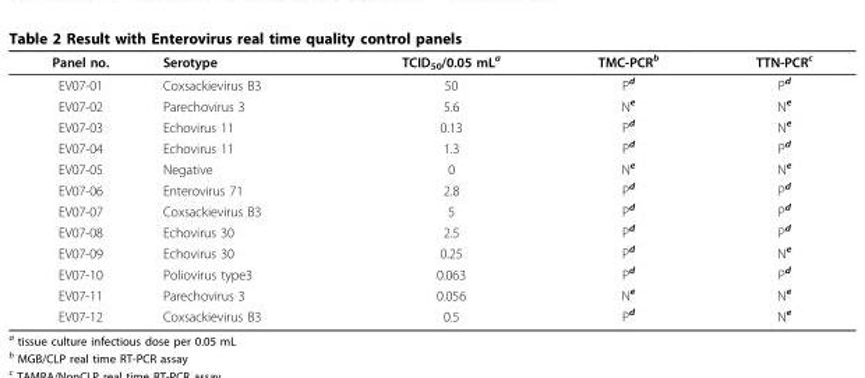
<table><thead><tr><td>Panel no.</td><td>Serotype</td><td>TCID<sub>50</sub>/0.05 mL<sup>a</sup></td><td>TMC-PCR<sup>b</sup></td><td>TTN-PCR<sup>c</sup></td></tr></thead><tbody><tr><td>EV07-01</td><td>Coxsackievirus B3</td><td>50</td><td>P<sup>d</sup></td><td>P<sup>d</sup></td></tr><tr><td>EV07-02</td><td>Parechovirus 3</td><td>5.6</td><td>N<sup>e</sup></td><td>N<sup>e</sup></td></tr><tr><td>EV07-03</td><td>Echovirus 11</td><td>0.13</td><td>P<sup>d</sup></td><td>N<sup>e</sup></td></tr><tr><td>EV07-04</td><td>Echovirus 11</td><td>1.3</td><td>P<sup>d</sup></td><td>P<sup>d</sup></td></tr><tr><td>EV07-05</td><td>Negative</td><td>0</td><td>N<sup>e</sup></td><td>N<sup>e</sup></td></tr><tr><td>EV07-06</td><td>Enterovirus 71</td><td>2.8</td><td>P<sup>d</sup></td><td>P<sup>d</sup></td></tr><tr><td>EV07-07</td><td>Coxsackievirus B3</td><td>5</td><td>P<sup>d</sup></td><td>P<sup>d</sup></td></tr><tr><td>EV07-08</td><td>Echovirus 30</td><td>2.5</td><td>P<sup>d</sup></td><td>P<sup>d</sup></td></tr><tr><td>EV07-09</td><td>Echovirus 30</td><td>0.25</td><td>P<sup>d</sup></td><td>N<sup>e</sup></td></tr><tr><td>EV07-10</td><td>Poliovirus type3</td><td>0.063</td><td>P<sup>d</sup></td><td>P<sup>d</sup></td></tr><tr><td>EV07-11</td><td>Parechovirus 3</td><td>0.056</td><td>N<sup>e</sup></td><td>N<sup>e</sup></td></tr><tr><td>EV07-12</td><td>Coxsackievirus B3</td><td>0.5</td><td>P<sup>d</sup></td><td>N<sup>e</sup></td></tr></tbody></table>